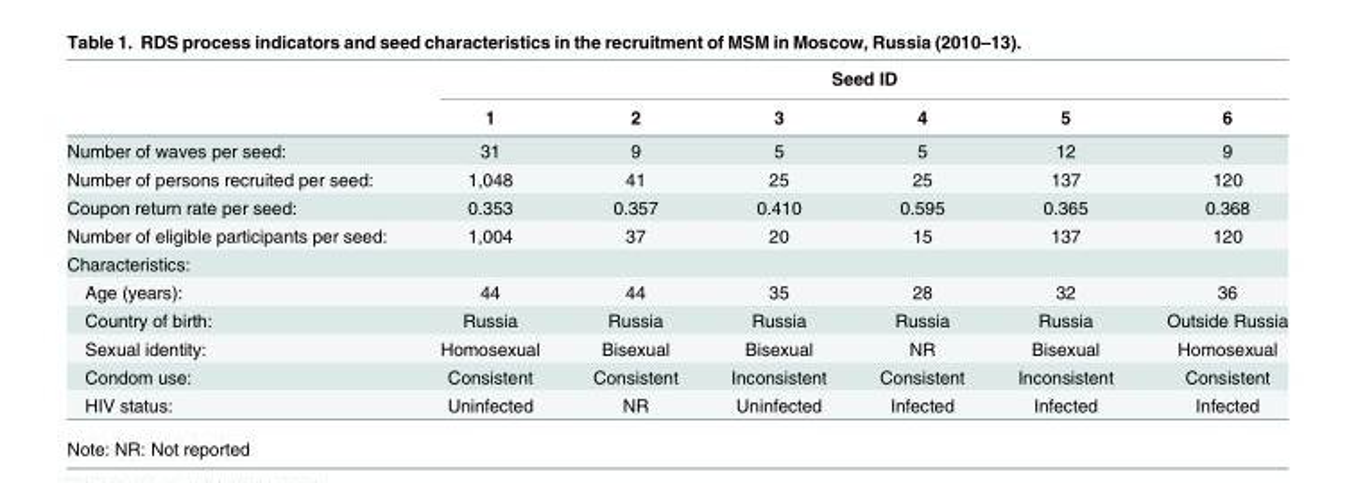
<table><thead><tr><td rowspan="2"></td><td colspan="6">Seed ID</td></tr><tr><td>1</td><td>2</td><td>3</td><td>4</td><td>5</td><td>6</td></tr></thead><tbody><tr><td>Number of waves per seed:</td><td>31</td><td>9</td><td>5</td><td>5</td><td>12</td><td>9</td></tr><tr><td>Number of persons recruited per seed:</td><td>1,048</td><td>41</td><td>25</td><td>25</td><td>137</td><td>120</td></tr><tr><td>Coupon return rate per seed:</td><td>0.353</td><td>0.357</td><td>0.410</td><td>0.595</td><td>0.365</td><td>0.368</td></tr><tr><td>Number of eligible participants per seed:</td><td>1,004</td><td>37</td><td>20</td><td>15</td><td>137</td><td>120</td></tr><tr><td colspan="7">Characteristics:</td></tr><tr><td>Age (years):</td><td>44</td><td>44</td><td>35</td><td>28</td><td>32</td><td>36</td></tr><tr><td>Country of birth:</td><td>Russia</td><td>Russia</td><td>Russia</td><td>Russia</td><td>Russia</td><td>Outside Russia</td></tr><tr><td>Sexual identity:</td><td>Homosexual</td><td>Bisexual</td><td>Bisexual</td><td>NR</td><td>Bisexual</td><td>Homosexual</td></tr><tr><td>Condom use:</td><td>Consistent</td><td>Consistent</td><td>Inconsistent</td><td>Consistent</td><td>Inconsistent</td><td>Consistent</td></tr><tr><td>HIV status:</td><td>Uninfected</td><td>NR</td><td>Uninfected</td><td>Infected</td><td>Infected</td><td>Infected</td></tr></tbody></table>